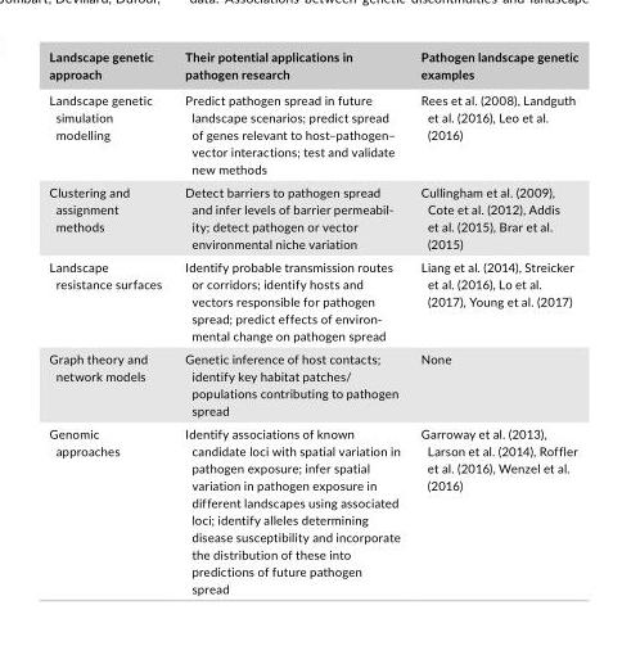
<table><thead><tr><td>Landscape genetic approach</td><td>Their potential applications in pathogen research</td><td>Pathogen landscape genetic examples</td></tr></thead><tbody><tr><td>Landscape genetic simulation modelling</td><td>Predict pathogen spread in future landscape scenarios; predict spread of genes relevant to host–pathogen– vector interactions; test and validate new methods</td><td>Rees et al. (2008), Landguth et al. (2016), Leo et al. (2016)</td></tr><tr><td>Clustering and assignment methods</td><td>Detect barriers to pathogen spread and infer levels of barrier permeabil- ity; detect pathogen or vector environmental niche variation</td><td>Cullingham et al. (2009), Cote et al. (2012), Addis et al. (2015), Brar et al. (2015)</td></tr><tr><td>Landscape resistance surfaces</td><td>Identify probable transmission routes or corridors; identify hosts and vectors responsible for pathogen spread; predict effects of environ- mental change on pathogen spread</td><td>Liang et al. (2014), Streicker et al. (2016), Lo et al. (2017), Young et al. (2017)</td></tr><tr><td>Graph theory and network models</td><td>Genetic inference of host contacts; identify key habitat patches/ populations contributing to pathogen spread</td><td>None</td></tr><tr><td>Genomic approaches</td><td>Identify associations of known candidate loci with spatial variation in pathogen exposure; infer spatial variation in pathogen exposure in different landscapes using associated loci; identify alleles determining disease susceptibility and incorporate the distribution of these into predictions of future pathogen spread</td><td>Garroway et al. (2013), Larson et al. (2014), Roffler et al. (2016), Wenzel et al. (2016)</td></tr></tbody></table>